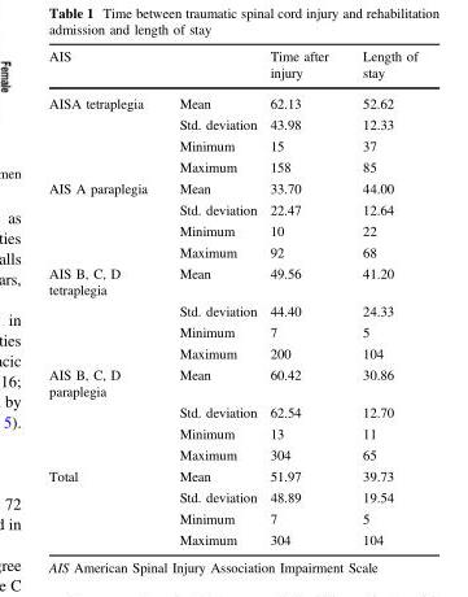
<table><thead><tr><td colspan="2">AIS</td><td rowspan="2">Time after injury 62.13</td><td rowspan="2">Length of stay 52.62</td></tr><tr><td>AISA tetraplegia</td><td>Mean</td></tr></thead><tbody><tr><td></td><td>Std. deviation</td><td>43.98</td><td>12.33</td></tr><tr><td></td><td>Minimum</td><td>15</td><td>37</td></tr><tr><td></td><td>Maximum</td><td>158</td><td>85</td></tr><tr><td rowspan="4">AIS A paraplegia</td><td>Mean</td><td>33.70</td><td>44.00</td></tr><tr><td>Std. deviation</td><td>22.47</td><td>12.64</td></tr><tr><td>Minimum</td><td>10</td><td>22</td></tr><tr><td>Maximum</td><td>92</td><td>68</td></tr><tr><td rowspan="4">AIS B, C, D tetraplegia</td><td>Mean</td><td>49.56</td><td>41.20</td></tr><tr><td>Std. deviation</td><td>44.40</td><td>24.33</td></tr><tr><td>Minimum</td><td>7</td><td>5</td></tr><tr><td>Maximum</td><td>200</td><td>104</td></tr><tr><td rowspan="4">AIS B, C, D paraplegia</td><td>Mean</td><td>60.42</td><td>30.86</td></tr><tr><td>Std. deviation</td><td>62.54</td><td>12.70</td></tr><tr><td>Minimum</td><td>13</td><td>11</td></tr><tr><td>Maximum</td><td>304</td><td>65</td></tr><tr><td rowspan="4">Total</td><td>Mean</td><td>51.97</td><td>39.73</td></tr><tr><td>Std. deviation</td><td>48.89</td><td>19.54</td></tr><tr><td>Minimum</td><td>7</td><td>5</td></tr><tr><td>Maximum</td><td>304</td><td>104</td></tr></tbody></table>